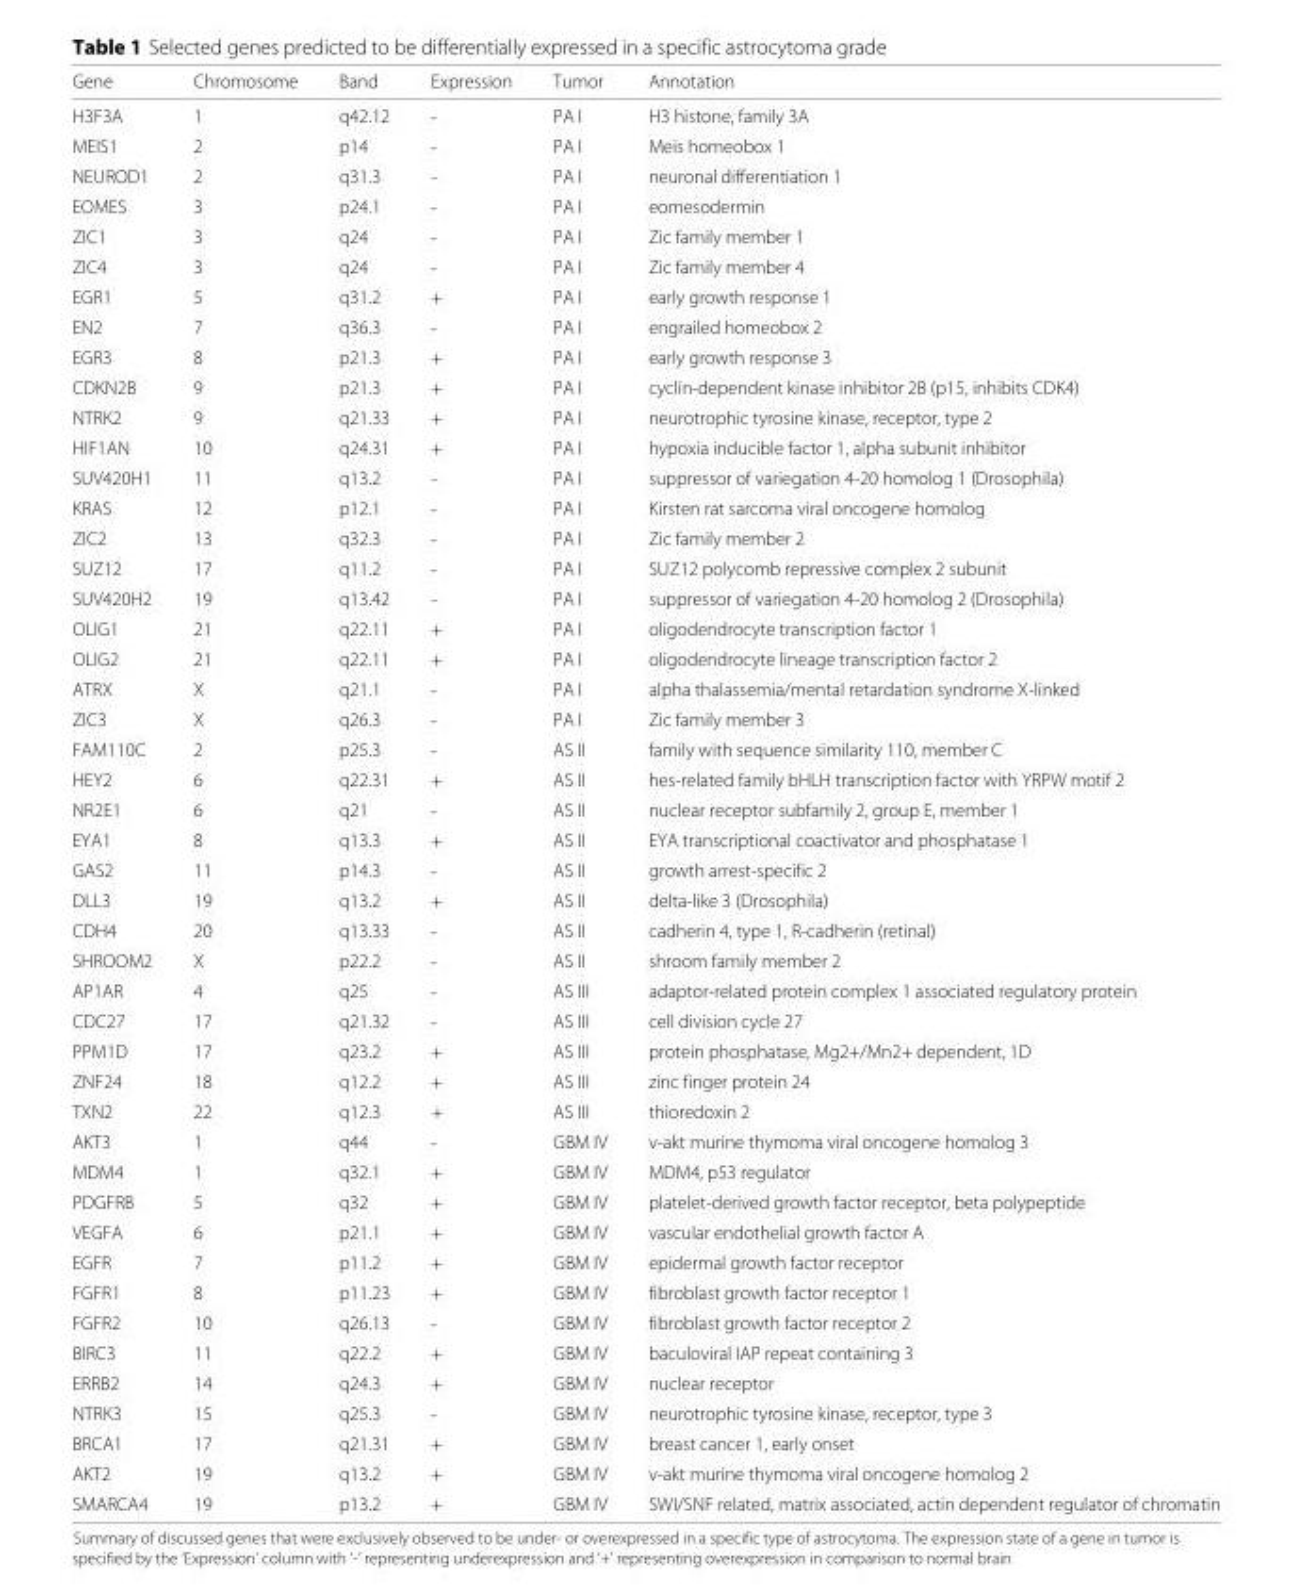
<table><thead><tr><td>Gene</td><td>Chromosome</td><td>Band</td><td>Expression</td><td>Tumor</td><td>Annotation</td></tr></thead><tbody><tr><td>H3F3A</td><td>1</td><td>q42.12</td><td>-</td><td>PA I</td><td>H3 histone, family 3A</td></tr><tr><td>MEIS1</td><td>2</td><td>p14</td><td>-</td><td>PA I</td><td>Meis homeobox 1</td></tr><tr><td>NEUROD1</td><td>2</td><td>q31.3</td><td>-</td><td>PA I</td><td>neuronal differentiation 1</td></tr><tr><td>EOMES</td><td>3</td><td>p24.1</td><td>-</td><td>PA I</td><td>eomesodermin</td></tr><tr><td>ZIC1</td><td>3</td><td>q24</td><td>-</td><td>PA I</td><td>Zic family member 1</td></tr><tr><td>ZIC4</td><td>3</td><td>q24</td><td>-</td><td>PA I</td><td>Zic family member 4</td></tr><tr><td>EGR1</td><td>5</td><td>q31.2</td><td>+</td><td>PA I</td><td>early growth response 1</td></tr><tr><td>EN2</td><td>7</td><td>q36.3</td><td>-</td><td>PA I</td><td>engrailed homeobox 2</td></tr><tr><td>EGR3</td><td>8</td><td>p21.3</td><td>+</td><td>PA I</td><td>early growth response 3</td></tr><tr><td>CDKN2B</td><td>9</td><td>p21.3</td><td>+</td><td>PA I</td><td>cyclin-dependent kinase inhibitor 2B (p15, inhibits CDK4)</td></tr><tr><td>NTRK2</td><td>9</td><td>q21.33</td><td>+</td><td>PA I</td><td>neurotrophic tyrosine kinase, receptor, type 2</td></tr><tr><td>HIF1AN</td><td>10</td><td>q24.31</td><td>+</td><td>PA I</td><td>hypoxia inducible factor 1, alpha subunit inhibitor</td></tr><tr><td>SUV420H1</td><td>11</td><td>q13.2</td><td>-</td><td>PA I</td><td>suppressor of variegation 4-20 homolog 1 (Drosophila)</td></tr><tr><td>KRAS</td><td>12</td><td>p12.1</td><td>-</td><td>PA I</td><td>Kirsten rat sarcoma viral oncogene homolog</td></tr><tr><td>ZIC2</td><td>13</td><td>q32.3</td><td>-</td><td>PA I</td><td>Zic family member 2</td></tr><tr><td>SUZ12</td><td>17</td><td>q11.2</td><td>-</td><td>PA I</td><td>SUZ12 polycomb repressive complex 2 subunit</td></tr><tr><td>SUV420H2</td><td>19</td><td>q13.42</td><td>-</td><td>PA I</td><td>suppressor of variegation 4-20 homolog 2 (Drosophila)</td></tr><tr><td>OLIG1</td><td>21</td><td>q22.11</td><td>+</td><td>PA I</td><td>oligodendrocyte transcription factor 1</td></tr><tr><td>OLIG2</td><td>21</td><td>q22.11</td><td>+</td><td>PA I</td><td>oligodendrocyte lineage transcription factor 2</td></tr><tr><td>ATRX</td><td>X</td><td>q21.1</td><td>-</td><td>PA I</td><td>alpha thalassemia/mental retardation syndrome X-linked</td></tr><tr><td>ZIC3</td><td>X</td><td>q26.3</td><td>-</td><td>PA I</td><td>Zic family member 3</td></tr><tr><td>FAM110C</td><td>2</td><td>p25.3</td><td>-</td><td>AS II</td><td>family with sequence similarity 110, member C</td></tr><tr><td>HEY2</td><td>6</td><td>q22.31</td><td>+</td><td>AS II</td><td>hes-related family bHLH transcription factor with YRPW motif 2</td></tr><tr><td>NR2E1</td><td>6</td><td>q21</td><td>-</td><td>AS II</td><td>nuclear receptor subfamily 2, group E, member 1</td></tr><tr><td>EYA1</td><td>8</td><td>q13.3</td><td>+</td><td>AS II</td><td>EYA transcriptional coactivator and phosphatase 1</td></tr><tr><td>GAS2</td><td>11</td><td>p14.3</td><td>-</td><td>AS II</td><td>growth arrest-specific 2</td></tr><tr><td>DLL3</td><td>19</td><td>q13.2</td><td>+</td><td>AS II</td><td>delta-like 3 (Drosophila)</td></tr><tr><td>CDH4</td><td>20</td><td>q13.33</td><td>-</td><td>AS II</td><td>cadherin 4, type 1, R-cadherin (retinal)</td></tr><tr><td>SHROOM2</td><td>X</td><td>p22.2</td><td>-</td><td>AS II</td><td>shroom family member 2</td></tr><tr><td>AP1AR</td><td>4</td><td>q25</td><td>-</td><td>AS III</td><td>adaptor-related protein complex 1 associated regulatory protein</td></tr><tr><td>CDC27</td><td>17</td><td>q21.32</td><td>-</td><td>AS III</td><td>cell division cycle 27</td></tr><tr><td>PPM1D</td><td>17</td><td>q23.2</td><td>+</td><td>AS III</td><td>protein phosphatase, Mg2+/Mn2+ dependent, 1D</td></tr><tr><td>ZNF24</td><td>18</td><td>q12.2</td><td>+</td><td>AS III</td><td>zinc finger protein 24</td></tr><tr><td>TXN2</td><td>22</td><td>q12.3</td><td>+</td><td>AS III</td><td>thioredoxin 2</td></tr><tr><td>AKT3</td><td>1</td><td>q44</td><td>-</td><td>GBM IV</td><td>v-akt murine thymoma viral oncogene homolog 3</td></tr><tr><td>MDM4</td><td>1</td><td>q32.1</td><td>+</td><td>GBM IV</td><td>MDM4, p53 regulator</td></tr><tr><td>PDGFRB</td><td>5</td><td>q32</td><td>+</td><td>GBM IV</td><td>platelet-derived growth factor receptor, beta polypeptide</td></tr><tr><td>VEGFA</td><td>6</td><td>p21.1</td><td>+</td><td>GBM IV</td><td>vascular endothelial growth factor A</td></tr><tr><td>EGFR</td><td>7</td><td>p11.2</td><td>+</td><td>GBM IV</td><td>epidermal growth factor receptor</td></tr><tr><td>FGFR1</td><td>8</td><td>p11.23</td><td>+</td><td>GBM IV</td><td>fibroblast growth factor receptor 1</td></tr><tr><td>FGFR2</td><td>10</td><td>q26.13</td><td>-</td><td>GBM IV</td><td>fibroblast growth factor receptor 2</td></tr><tr><td>BIRC3</td><td>11</td><td>q22.2</td><td>+</td><td>GBM IV</td><td>baculoviral IAP repeat containing 3</td></tr><tr><td>ERRB2</td><td>14</td><td>q24.3</td><td>+</td><td>GBM IV</td><td>nuclear receptor</td></tr><tr><td>NTRK3</td><td>15</td><td>q25.3</td><td>-</td><td>GBM IV</td><td>neurotrophic tyrosine kinase, receptor, type 3</td></tr><tr><td>BRCA1</td><td>17</td><td>q21.31</td><td>+</td><td>GBM IV</td><td>breast cancer 1, early onset</td></tr><tr><td>AKT2</td><td>19</td><td>q13.2</td><td>+</td><td>GBM IV</td><td>v-akt murine thymoma viral oncogene homolog 2</td></tr><tr><td>SMARCA4</td><td>19</td><td>p13.2</td><td>+</td><td>GBM IV</td><td>SWI/SNF related, matrix associated, actin dependent regulator of chromatin</td></tr></tbody></table>